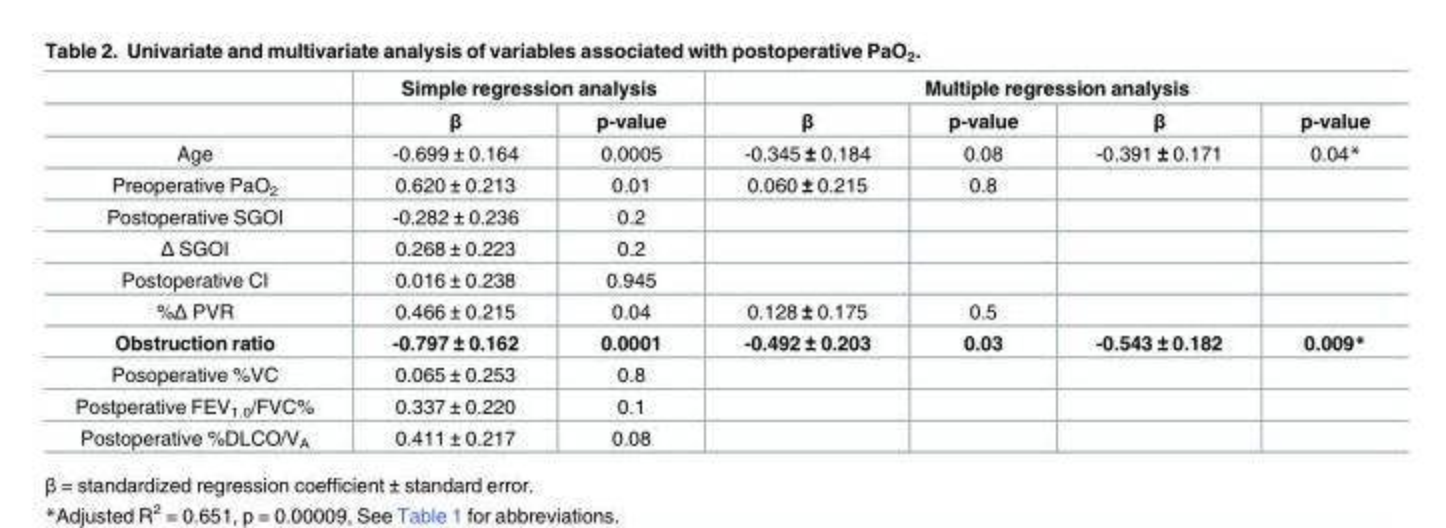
<table><thead><tr><td rowspan="2"></td><td colspan="2">Simple regression analysis</td><td colspan="4">Multiple regression analysis</td></tr><tr><td>β</td><td>p-value</td><td>β</td><td>p-value</td><td>β</td><td>p-value</td></tr></thead><tbody><tr><td>Age</td><td>-0.699 ± 0.164</td><td>0.0005</td><td>-0.345 ± 0.184</td><td>0.08</td><td>-0.391 ± 0.171</td><td>0.04*</td></tr><tr><td>Preoperative PaO<sub>2</sub></td><td>0.620 ± 0.213</td><td>0.01</td><td>0.060 ± 0.215</td><td>0.8</td><td></td><td></td></tr><tr><td>Postoperative SGOI</td><td>-0.282 ± 0.236</td><td>0.2</td><td></td><td></td><td></td><td></td></tr><tr><td>Δ SGOI</td><td>0.268 ± 0.223</td><td>0.2</td><td></td><td></td><td></td><td></td></tr><tr><td>Postoperative CI</td><td>0.016 ± 0.238</td><td>0.945</td><td></td><td></td><td></td><td></td></tr><tr><td>%Δ PVR</td><td>0.466 ± 0.215</td><td>0.04</td><td>0.128 ± 0.175</td><td>0.5</td><td></td><td></td></tr><tr><td>Obstruction ratio</td><td>-0.797 ± 0.162</td><td>0.0001</td><td>-0.492 ± 0.203</td><td>0.03</td><td>-0.543 ± 0.182</td><td>0.009*</td></tr><tr><td>Posoperative %VC</td><td>0.065 ± 0.253</td><td>0.8</td><td></td><td></td><td></td><td></td></tr><tr><td>Postperative FEV<sub>1.0</sub>/FVC%</td><td>0.337 ± 0.220</td><td>0.1</td><td></td><td></td><td></td><td></td></tr><tr><td>Postoperative %DLCO/V<sub>A</sub></td><td>0.411 ± 0.217</td><td>0.08</td><td></td><td></td><td></td><td></td></tr></tbody></table>